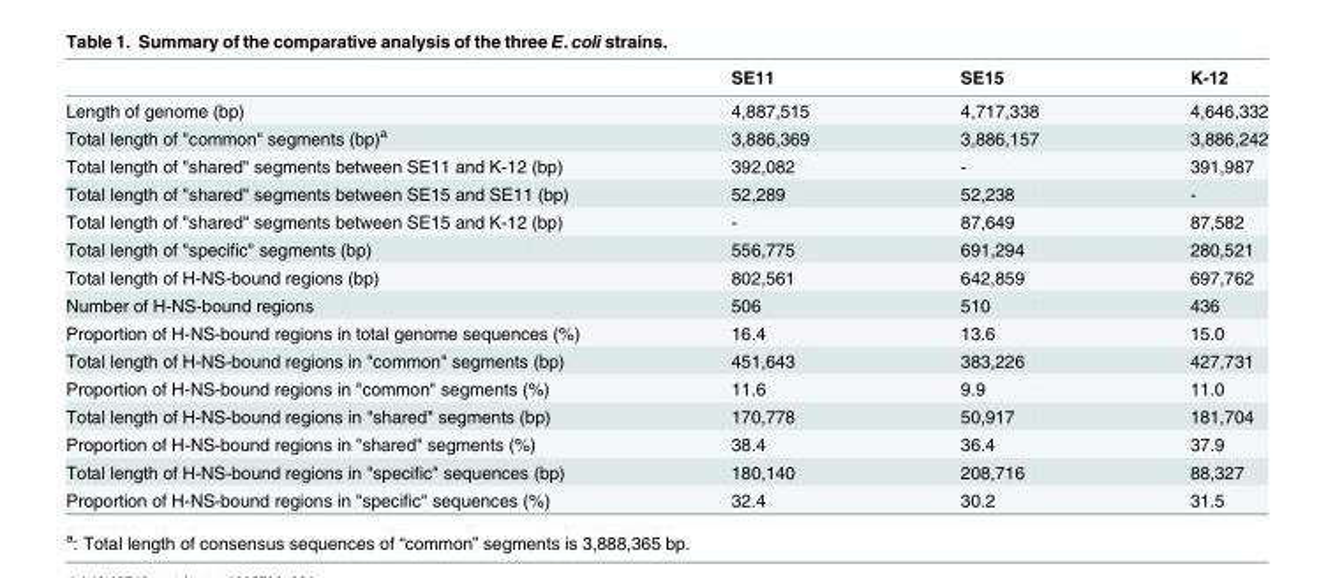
<table><thead><tr><td></td><td>SE11</td><td>SE15</td><td>K-12</td></tr></thead><tbody><tr><td>Length of genome (bp)</td><td>4,887,515</td><td>4,717,338</td><td>4,646,332</td></tr><tr><td>Total length of &quot;common&quot; segments (bp)<sup>a</sup></td><td>3,886,369</td><td>3,886,157</td><td>3,886,242</td></tr><tr><td>Total length of &quot;shared&quot; segments between SE11 and K-12 (bp)</td><td>392,082</td><td>-</td><td>391,987</td></tr><tr><td>Total length of &quot;shared&quot; segments between SE15 and SE11 (bp)</td><td>52,289</td><td>52,238</td><td>-</td></tr><tr><td>Total length of &quot;shared&quot; segments between SE15 and K-12 (bp)</td><td>-</td><td>87,649</td><td>87,582</td></tr><tr><td>Total length of &quot;specific&quot; segments (bp)</td><td>556,775</td><td>691,294</td><td>280,521</td></tr><tr><td>Total length of H-NS-bound regions (bp)</td><td>802,561</td><td>642,859</td><td>697,762</td></tr><tr><td>Number of H-NS-bound regions</td><td>506</td><td>510</td><td>436</td></tr><tr><td>Proportion of H-NS-bound regions in total genome sequences (%)</td><td>16.4</td><td>13.6</td><td>15.0</td></tr><tr><td>Total length of H-NS-bound regions in &quot;common&quot; segments (bp)</td><td>451,643</td><td>383,226</td><td>427,731</td></tr><tr><td>Proportion of H-NS-bound regions in &quot;common&quot; segments (%)</td><td>11.6</td><td>9.9</td><td>11.0</td></tr><tr><td>Total length of H-NS-bound regions in &quot;shared&quot; segments (bp)</td><td>170,778</td><td>50,917</td><td>181,704</td></tr><tr><td>Proportion of H-NS-bound regions in &quot;shared&quot; segments (%)</td><td>38.4</td><td>36.4</td><td>37.9</td></tr><tr><td>Total length of H-NS-bound regions in &quot;specific&quot; sequences (bp)</td><td>180,140</td><td>208,716</td><td>88,327</td></tr><tr><td>Proportion of H-NS-bound regions in &quot;specific&quot; sequences (%)</td><td>32.4</td><td>30.2</td><td>31.5</td></tr></tbody></table>